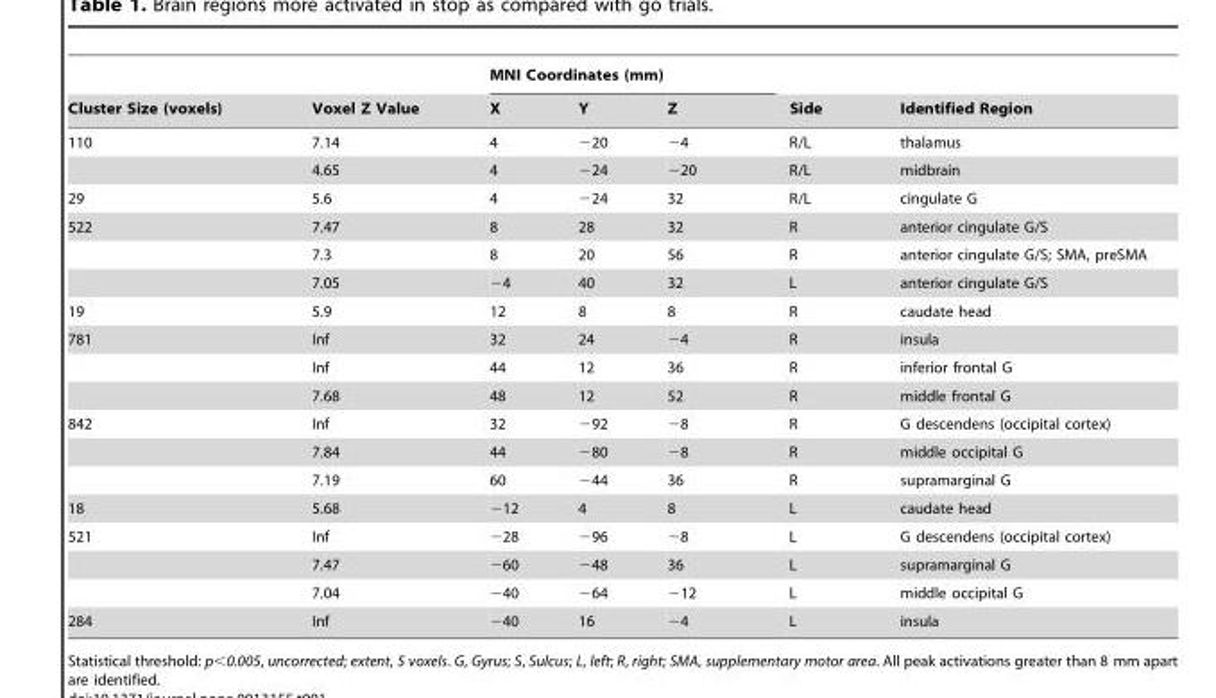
<table><thead><tr><td rowspan="2">Cluster Size (voxels)</td><td rowspan="2">Voxel Z Value</td><td colspan="3">MNI Coordinates (mm)</td><td rowspan="2">Side</td><td rowspan="2">Identified Region</td></tr><tr><td>X</td><td>Y</td><td>Z</td></tr></thead><tbody><tr><td rowspan="2">110</td><td>7.14</td><td>4</td><td>−20</td><td>−4</td><td>R/L</td><td>thalamus</td></tr><tr><td>4.65</td><td>4</td><td>−24</td><td>−20</td><td>R/L</td><td>midbrain</td></tr><tr><td>29</td><td>5.6</td><td>4</td><td>−24</td><td>32</td><td>R/L</td><td>cingulate G</td></tr><tr><td rowspan="3">522</td><td>7.47</td><td>8</td><td>28</td><td>32</td><td>R</td><td>anterior cingulate G/S</td></tr><tr><td>7.3</td><td>8</td><td>20</td><td>56</td><td>R</td><td>anterior cingulate G/S; SMA, preSMA</td></tr><tr><td>7.05</td><td>−4</td><td>40</td><td>32</td><td>L</td><td>anterior cingulate G/S</td></tr><tr><td>19</td><td>5.9</td><td>12</td><td>8</td><td>8</td><td>R</td><td>caudate head</td></tr><tr><td rowspan="3">781</td><td>Inf</td><td>32</td><td>24</td><td>−4</td><td>R</td><td>insula</td></tr><tr><td>Inf</td><td>44</td><td>12</td><td>36</td><td>R</td><td>inferior frontal G</td></tr><tr><td>7.68</td><td>48</td><td>12</td><td>52</td><td>R</td><td>middle frontal G</td></tr><tr><td rowspan="3">842</td><td>Inf</td><td>32</td><td>−92</td><td>−8</td><td>R</td><td>G descendens (occipital cortex)</td></tr><tr><td>7.84</td><td>44</td><td>−80</td><td>−8</td><td>R</td><td>middle occipital G</td></tr><tr><td>7.19</td><td>60</td><td>−44</td><td>36</td><td>R</td><td>supramarginal G</td></tr><tr><td>18</td><td>5.68</td><td>−12</td><td>4</td><td>8</td><td>L</td><td>caudate head</td></tr><tr><td rowspan="3">521</td><td>Inf</td><td>−28</td><td>−96</td><td>−8</td><td>L</td><td>G descendens (occipital cortex)</td></tr><tr><td>7.47</td><td>−60</td><td>−48</td><td>36</td><td>L</td><td>supramarginal G</td></tr><tr><td>7.04</td><td>−40</td><td>−64</td><td>−12</td><td>L</td><td>middle occipital G</td></tr><tr><td>284</td><td>Inf</td><td>−40</td><td>16</td><td>−4</td><td>L</td><td>insula</td></tr></tbody></table>